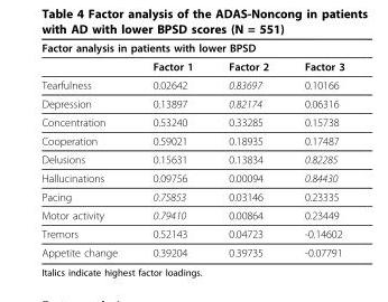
<table><thead><tr><td colspan="4">Factor analysis in patients with lower BPSD</td></tr><tr><td></td><td>Factor 1</td><td>Factor 2</td><td>Factor 3</td></tr></thead><tbody><tr><td>Tearfulness</td><td>0.02642</td><td>0.83697</td><td>0.10166</td></tr><tr><td>Depression</td><td>0.13897</td><td>0.82174</td><td>0.06316</td></tr><tr><td>Concentration</td><td>0.53240</td><td>0.33285</td><td>0.15738</td></tr><tr><td>Cooperation</td><td>0.59021</td><td>0.18935</td><td>0.17487</td></tr><tr><td>Delusions</td><td>0.15631</td><td>0.13834</td><td>0.82285</td></tr><tr><td>Hallucinations</td><td>0.09756</td><td>0.00094</td><td>0.84430</td></tr><tr><td>Pacing</td><td>0.75853</td><td>0.03146</td><td>0.23335</td></tr><tr><td>Motor activity</td><td>0.79410</td><td>0.00864</td><td>0.23449</td></tr><tr><td>Tremors</td><td>0.52143</td><td>0.04723</td><td>-0.14602</td></tr><tr><td>Appetite change</td><td>0.39204</td><td>0.39735</td><td>-0.07791</td></tr></tbody></table>